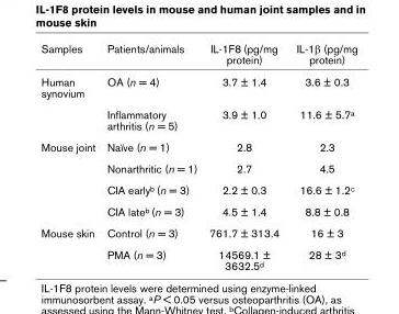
<table><thead><tr><td>Samples</td><td>Patients/animals</td><td>IL-1F8 (pg/mg protein)</td><td>IL-1β (pg/mg protein)</td></tr></thead><tbody><tr><td rowspan="2">Human synovium</td><td>OA (n = 4)</td><td>3.7 ± 1.4</td><td>3.6 ± 0.3</td></tr><tr><td>Inflammatory arthritis (n = 5)</td><td>3.9 ± 1.0</td><td>11.6 ± 5.7a</td></tr><tr><td rowspan="4">Mouse joint</td><td>Naïve (n = 1)</td><td>2.8</td><td>2.3</td></tr><tr><td>Nonarthritic (n = 1)</td><td>2.7</td><td>4.5</td></tr><tr><td>CIA earlyb (n = 3)</td><td>2.2 ± 0.3</td><td>16.6 ± 1.2c</td></tr><tr><td>CIA lateb (n = 3)</td><td>4.5 ± 1.4</td><td>8.8 ± 0.8</td></tr><tr><td rowspan="2">Mouse skin</td><td>Control (n = 3)</td><td>761.7 ± 313.4</td><td>16 ± 3</td></tr><tr><td>PMA (n = 3)</td><td>14569.1 ± 3632.5d</td><td>28 ± 3d</td></tr></tbody></table>